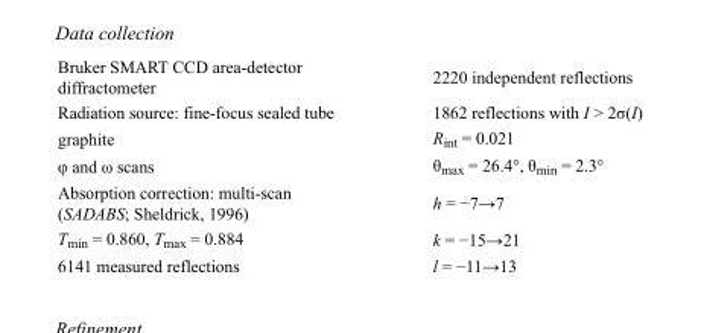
<table><tbody><tr><td>Bruker SMART CCD area-detector diffractometer</td><td>2220 independent reflections</td></tr><tr><td>Radiation source: fine-focus sealed tube</td><td>1862 reflections with I &gt; 2σ(I)</td></tr><tr><td>graphite</td><td>R<sub>int</sub> = 0.021</td></tr><tr><td>φ and ω scans</td><td>θ<sub>max</sub> = 26.4°, θ<sub>min</sub> = 2.3°</td></tr><tr><td>Absorption correction: multi-scan (SADABS; Sheldrick, 1996)</td><td>h = −7→7</td></tr><tr><td>T<sub>min</sub> = 0.860, T<sub>max</sub> = 0.884</td><td>k = −15→21</td></tr><tr><td>6141 measured reflections</td><td>l = −11→13</td></tr></tbody></table>